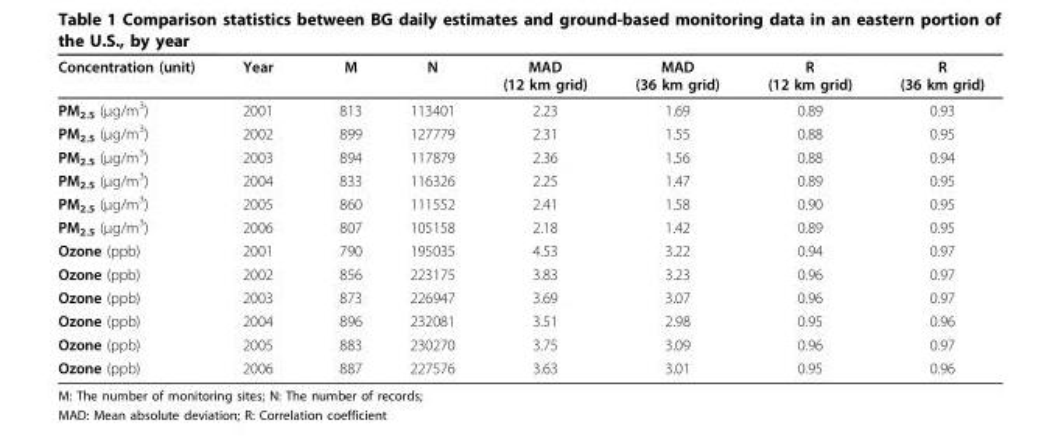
<table><thead><tr><td>Concentration (unit)</td><td>Year</td><td>M</td><td>N</td><td>MAD (12 km grid)</td><td>MAD (36 km grid)</td><td>R (12 km grid)</td><td>R (36 km grid)</td></tr></thead><tbody><tr><td>PM<sub>2.5</sub> (μg/m<sup>3</sup>)</td><td>2001</td><td>813</td><td>113401</td><td>2.23</td><td>1.69</td><td>0.89</td><td>0.93</td></tr><tr><td>PM<sub>2.5</sub> (μg/m<sup>3</sup>)</td><td>2002</td><td>899</td><td>127779</td><td>2.31</td><td>1.55</td><td>0.88</td><td>0.95</td></tr><tr><td>PM<sub>2.5</sub> (μg/m<sup>3</sup>)</td><td>2003</td><td>894</td><td>117879</td><td>2.36</td><td>1.56</td><td>0.88</td><td>0.94</td></tr><tr><td>PM<sub>2.5</sub> (μg/m<sup>3</sup>)</td><td>2004</td><td>833</td><td>116326</td><td>2.25</td><td>1.47</td><td>0.89</td><td>0.95</td></tr><tr><td>PM<sub>2.5</sub> (μg/m<sup>3</sup>)</td><td>2005</td><td>860</td><td>111552</td><td>2.41</td><td>1.58</td><td>0.90</td><td>0.95</td></tr><tr><td>PM<sub>2.5</sub> (μg/m<sup>3</sup>)</td><td>2006</td><td>807</td><td>105158</td><td>2.18</td><td>1.42</td><td>0.89</td><td>0.95</td></tr><tr><td>Ozone (ppb)</td><td>2001</td><td>790</td><td>195035</td><td>4.53</td><td>3.22</td><td>0.94</td><td>0.97</td></tr><tr><td>Ozone (ppb)</td><td>2002</td><td>856</td><td>223175</td><td>3.83</td><td>3.23</td><td>0.96</td><td>0.97</td></tr><tr><td>Ozone (ppb)</td><td>2003</td><td>873</td><td>226947</td><td>3.69</td><td>3.07</td><td>0.96</td><td>0.97</td></tr><tr><td>Ozone (ppb)</td><td>2004</td><td>896</td><td>232081</td><td>3.51</td><td>2.98</td><td>0.95</td><td>0.96</td></tr><tr><td>Ozone (ppb)</td><td>2005</td><td>883</td><td>230270</td><td>3.75</td><td>3.09</td><td>0.96</td><td>0.97</td></tr><tr><td>Ozone (ppb)</td><td>2006</td><td>887</td><td>227576</td><td>3.63</td><td>3.01</td><td>0.95</td><td>0.96</td></tr></tbody></table>